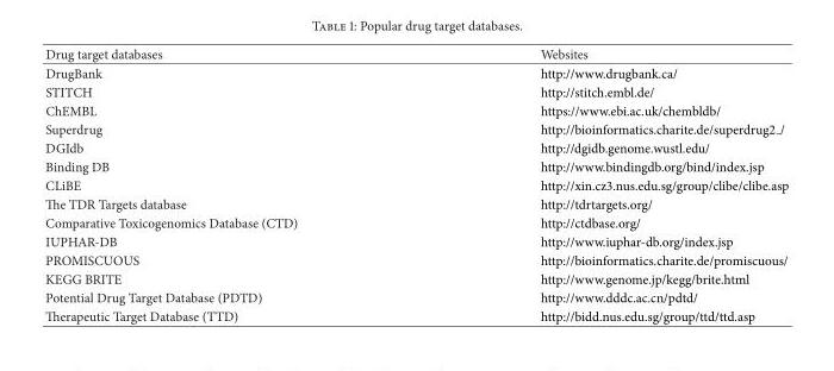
<table><thead><tr><td>Drug target databases</td><td>Websites</td></tr></thead><tbody><tr><td>DrugBank</td><td>http://www.drugbank.ca/</td></tr><tr><td>STITCH</td><td>http://stitch.embl.de/</td></tr><tr><td>ChEMBL</td><td>https://www.ebi.ac.uk/chembldb/</td></tr><tr><td>Superdrug</td><td>http://bioinformatics.charite.de/superdrug2 /</td></tr><tr><td>DGIdb</td><td>http://dgidb.genome.wustl.edu/</td></tr><tr><td>Binding DB</td><td>http://www.bindingdb.org/bind/index.jsp</td></tr><tr><td>CLiBE</td><td>http://xin.cz3.nus.edu.sg/group/clibe/clibe.asp</td></tr><tr><td>The TDR Targets database</td><td>http://tdrtargets.org/</td></tr><tr><td>Comparative Toxicogenomics Database (CTD)</td><td>http://ctdbase.org/</td></tr><tr><td>IUPHAR-DB</td><td>http://www.iuphar-db.org/index.jsp</td></tr><tr><td>PROMISCUOUS</td><td>http://bioinformatics.charite.de/promiscuous/</td></tr><tr><td>KEGG BRITE</td><td>http://www.genome.jp/kegg/brite.html</td></tr><tr><td>Potential Drug Target Database (PDTD)</td><td>http://www.dddc.ac.cn/pdtd/</td></tr><tr><td>Therapeutic Target Database (TTD)</td><td>http://bidd.nus.edu.sg/group/ttd/ttd.asp</td></tr></tbody></table>